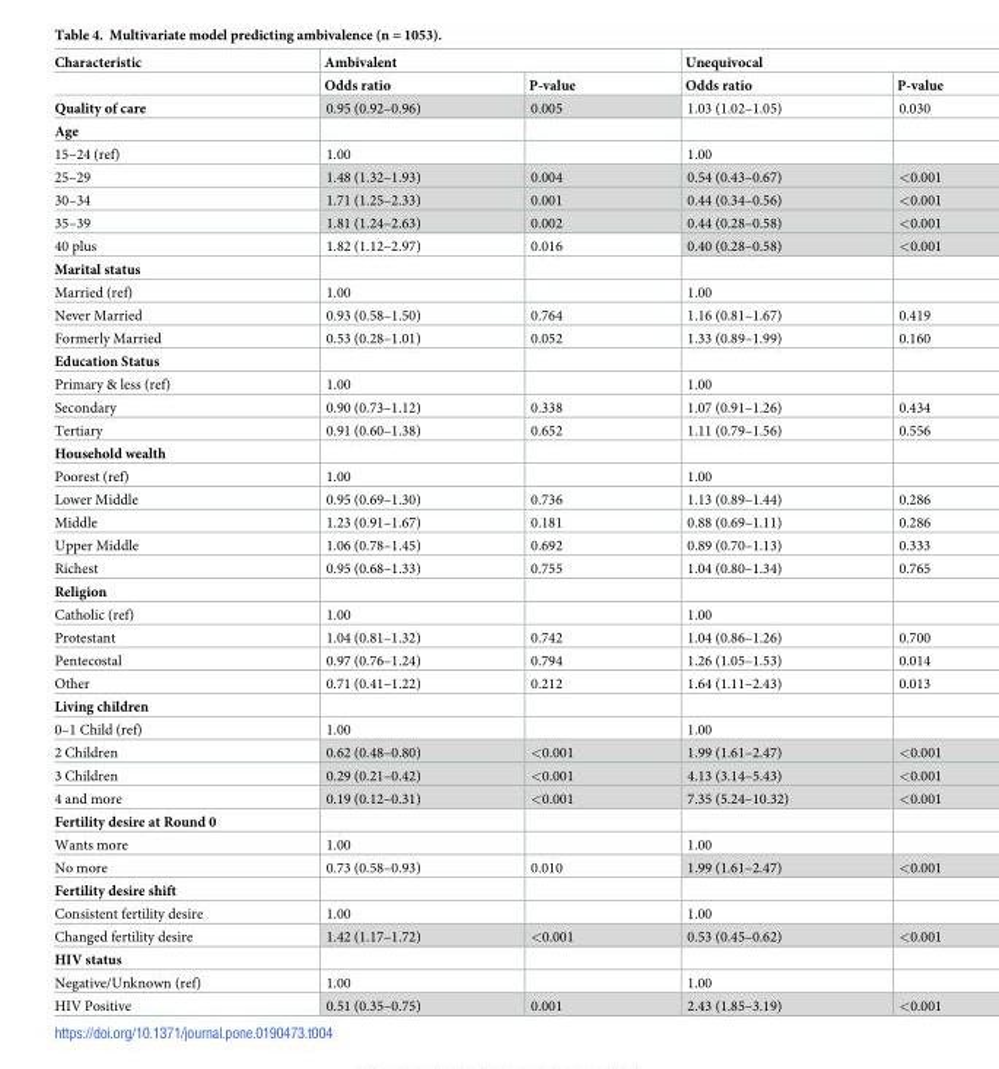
<table><thead><tr><td rowspan="2">Characteristic</td><td colspan="2">Ambivalent</td><td colspan="2">Unequivocal</td></tr><tr><td>Odds ratio</td><td>P-value</td><td>Odds ratio</td><td>P-value</td></tr></thead><tbody><tr><td>Quality of care</td><td>0.95 (0.92–0.96)</td><td>0.005</td><td>1.03 (1.02–1.05)</td><td>0.030</td></tr><tr><td colspan="5">Age</td></tr><tr><td>15–24 (ref)</td><td>1.00</td><td></td><td>1.00</td><td></td></tr><tr><td>25–29</td><td>1.48 (1.32–1.93)</td><td>0.004</td><td>0.54 (0.43–0.67)</td><td>&lt;0.001</td></tr><tr><td>30–34</td><td>1.71 (1.25–2.33)</td><td>0.001</td><td>0.44 (0.34–0.56)</td><td>&lt;0.001</td></tr><tr><td>35–39</td><td>1.81 (1.24–2.63)</td><td>0.002</td><td>0.44 (0.28–0.58)</td><td>&lt;0.001</td></tr><tr><td>40 plus</td><td>1.82 (1.12–2.97)</td><td>0.016</td><td>0.40 (0.28–0.58)</td><td>&lt;0.001</td></tr><tr><td colspan="5">Marital status</td></tr><tr><td>Married (ref)</td><td>1.00</td><td></td><td>1.00</td><td></td></tr><tr><td>Never Married</td><td>0.93 (0.58–1.50)</td><td>0.764</td><td>1.16 (0.81–1.67)</td><td>0.419</td></tr><tr><td>Formerly Married</td><td>0.53 (0.28–1.01)</td><td>0.052</td><td>1.33 (0.89–1.99)</td><td>0.160</td></tr><tr><td colspan="5">Education Status</td></tr><tr><td>Primary &amp; less (ref)</td><td>1.00</td><td></td><td>1.00</td><td></td></tr><tr><td>Secondary</td><td>0.90 (0.73–1.12)</td><td>0.338</td><td>1.07 (0.91–1.26)</td><td>0.434</td></tr><tr><td>Tertiary</td><td>0.91 (0.60–1.38)</td><td>0.652</td><td>1.11 (0.79–1.56)</td><td>0.556</td></tr><tr><td colspan="5">Household wealth</td></tr><tr><td>Poorest (ref)</td><td>1.00</td><td></td><td>1.00</td><td></td></tr><tr><td>Lower Middle</td><td>0.95 (0.69–1.30)</td><td>0.736</td><td>1.13 (0.89–1.44)</td><td>0.286</td></tr><tr><td>Middle</td><td>1.23 (0.91–1.67)</td><td>0.181</td><td>0.88 (0.69–1.11)</td><td>0.286</td></tr><tr><td>Upper Middle</td><td>1.06 (0.78–1.45)</td><td>0.692</td><td>0.89 (0.70–1.13)</td><td>0.333</td></tr><tr><td>Richest</td><td>0.95 (0.68–1.33)</td><td>0.755</td><td>1.04 (0.80–1.34)</td><td>0.765</td></tr><tr><td colspan="5">Religion</td></tr><tr><td>Catholic (ref)</td><td>1.00</td><td></td><td>1.00</td><td></td></tr><tr><td>Protestant</td><td>1.04 (0.81–1.32)</td><td>0.742</td><td>1.04 (0.86–1.26)</td><td>0.700</td></tr><tr><td>Pentecostal</td><td>0.97 (0.76–1.24)</td><td>0.794</td><td>1.26 (1.05–1.53)</td><td>0.014</td></tr><tr><td>Other</td><td>0.71 (0.41–1.22)</td><td>0.212</td><td>1.64 (1.11–2.43)</td><td>0.013</td></tr><tr><td colspan="5">Living children</td></tr><tr><td>0–1 Child (ref)</td><td>1.00</td><td></td><td>1.00</td><td></td></tr><tr><td>2 Children</td><td>0.62 (0.48–0.80)</td><td>&lt;0.001</td><td>1.99 (1.61–2.47)</td><td>&lt;0.001</td></tr><tr><td>3 Children</td><td>0.29 (0.21–0.42)</td><td>&lt;0.001</td><td>4.13 (3.14–5.43)</td><td>&lt;0.001</td></tr><tr><td>4 and more</td><td>0.19 (0.12–0.31)</td><td>&lt;0.001</td><td>7.35 (5.24–10.32)</td><td>&lt;0.001</td></tr><tr><td colspan="5">Fertility desire at Round 0</td></tr><tr><td>Wants more</td><td>1.00</td><td></td><td>1.00</td><td></td></tr><tr><td>No more</td><td>0.73 (0.58–0.93)</td><td>0.010</td><td>1.99 (1.61–2.47)</td><td>&lt;0.001</td></tr><tr><td colspan="5">Fertility desire shift</td></tr><tr><td>Consistent fertility desire</td><td>1.00</td><td></td><td>1.00</td><td></td></tr><tr><td>Changed fertility desire</td><td>1.42 (1.17–1.72)</td><td>&lt;0.001</td><td>0.53 (0.45–0.62)</td><td>&lt;0.001</td></tr><tr><td colspan="5">HIV status</td></tr><tr><td>Negative/Unknown (ref)</td><td>1.00</td><td></td><td>1.00</td><td></td></tr><tr><td>HIV Positive</td><td>0.51 (0.35–0.75)</td><td>0.001</td><td>2.43 (1.85–3.19)</td><td>&lt;0.001</td></tr></tbody></table>